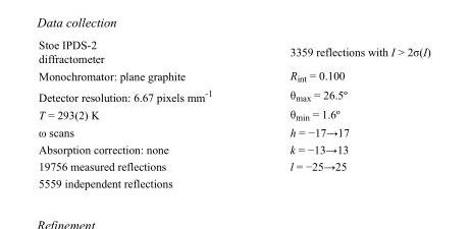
<table><tbody><tr><td>Stoe IPDS-2 diffractometer</td><td>3359 reflections with I &gt; 2σ(I)</td></tr><tr><td>Monochromator: plane graphite</td><td>R<sub>int</sub> = 0.100</td></tr><tr><td>Detector resolution: 6.67 pixels mm<sup>-1</sup></td><td>θ<sub>max</sub> = 26.5º</td></tr><tr><td>T = 293(2) K</td><td>θ<sub>min</sub> = 1.6º</td></tr><tr><td>ω scans</td><td>h = −17→17</td></tr><tr><td>Absorption correction: none</td><td>k = −13→13</td></tr><tr><td>19756 measured reflections</td><td>l = −25→25</td></tr><tr><td>5559 independent reflections</td><td></td></tr></tbody></table>